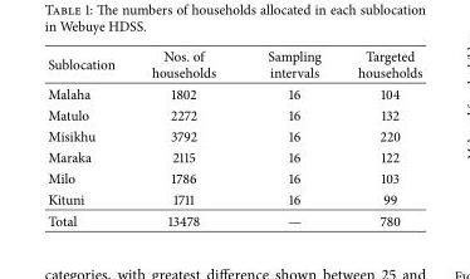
<table><thead><tr><td>Sublocation</td><td>Nos. of households</td><td>Sampling intervals</td><td>Targeted households</td></tr></thead><tbody><tr><td>Malaha</td><td>1802</td><td>16</td><td>104</td></tr><tr><td>Matulo</td><td>2272</td><td>16</td><td>132</td></tr><tr><td>Misikhu</td><td>3792</td><td>16</td><td>220</td></tr><tr><td>Maraka</td><td>2115</td><td>16</td><td>122</td></tr><tr><td>Milo</td><td>1786</td><td>16</td><td>103</td></tr><tr><td>Kituni</td><td>1711</td><td>16</td><td>99</td></tr><tr><td>Total</td><td>13478</td><td>—</td><td>780</td></tr></tbody></table>